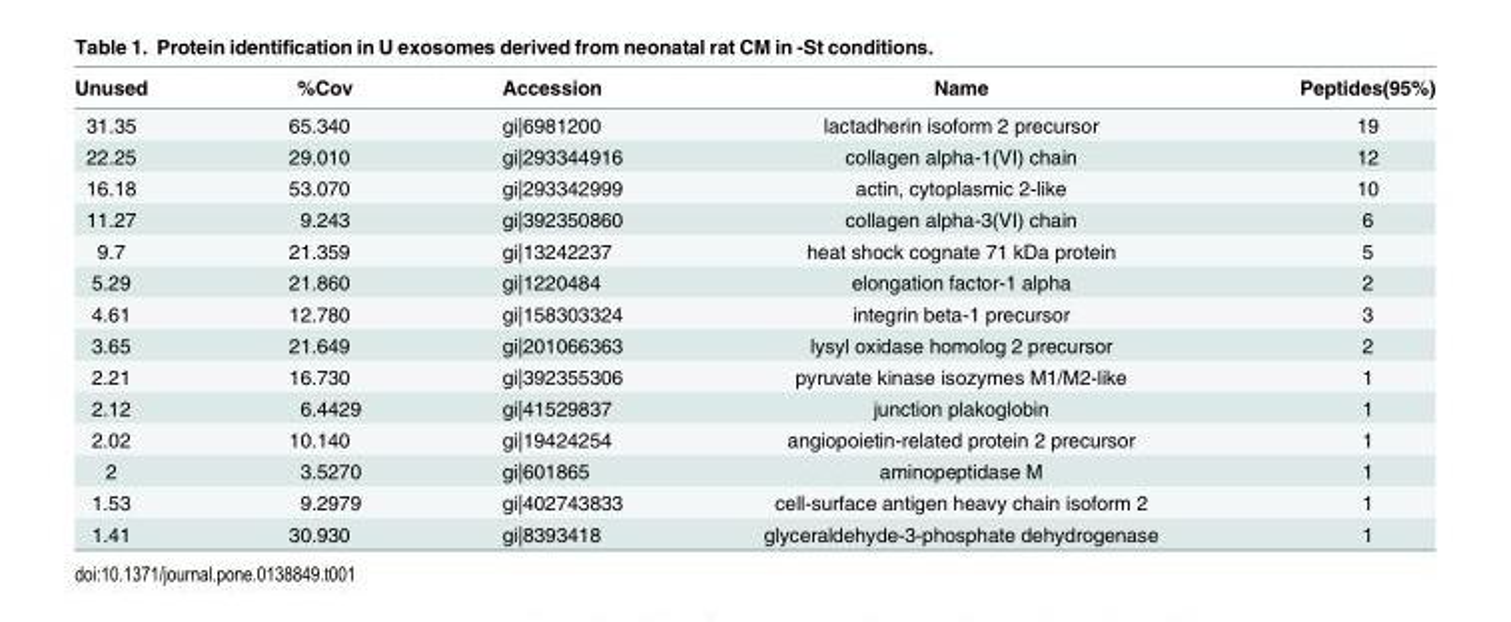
<table><thead><tr><td>Unused</td><td>%Cov</td><td>Accession</td><td>Name</td><td>Peptides(95%)</td></tr></thead><tbody><tr><td>31.35</td><td>65.340</td><td>gi|6981200</td><td>lactadherin isoform 2 precursor</td><td>19</td></tr><tr><td>22.25</td><td>29.010</td><td>gi|293344916</td><td>collagen alpha-1(VI) chain</td><td>12</td></tr><tr><td>16.18</td><td>53.070</td><td>gi|293342999</td><td>actin, cytoplasmic 2-like</td><td>10</td></tr><tr><td>11.27</td><td>9.243</td><td>gi|392350860</td><td>collagen alpha-3(VI) chain</td><td>6</td></tr><tr><td>9.7</td><td>21.359</td><td>gi|13242237</td><td>heat shock cognate 71 kDa protein</td><td>5</td></tr><tr><td>5.29</td><td>21.860</td><td>gi|1220484</td><td>elongation factor-1 alpha</td><td>2</td></tr><tr><td>4.61</td><td>12.780</td><td>gi|158303324</td><td>integrin beta-1 precursor</td><td>3</td></tr><tr><td>3.65</td><td>21.649</td><td>gi|201066363</td><td>lysyl oxidase homolog 2 precursor</td><td>2</td></tr><tr><td>2.21</td><td>16.730</td><td>gi|392355306</td><td>pyruvate kinase isozymes M1/M2-like</td><td>1</td></tr><tr><td>2.12</td><td>6.4429</td><td>gi|41529837</td><td>junction plakoglobin</td><td>1</td></tr><tr><td>2.02</td><td>10.140</td><td>gi|19424254</td><td>angiopoietin-related protein 2 precursor</td><td>1</td></tr><tr><td>2</td><td>3.5270</td><td>gi|601865</td><td>aminopeptidase M</td><td>1</td></tr><tr><td>1.53</td><td>9.2979</td><td>gi|402743833</td><td>cell-surface antigen heavy chain isoform 2</td><td>1</td></tr><tr><td>1.41</td><td>30.930</td><td>gi|8393418</td><td>glyceraldehyde-3-phosphate dehydrogenase</td><td>1</td></tr></tbody></table>